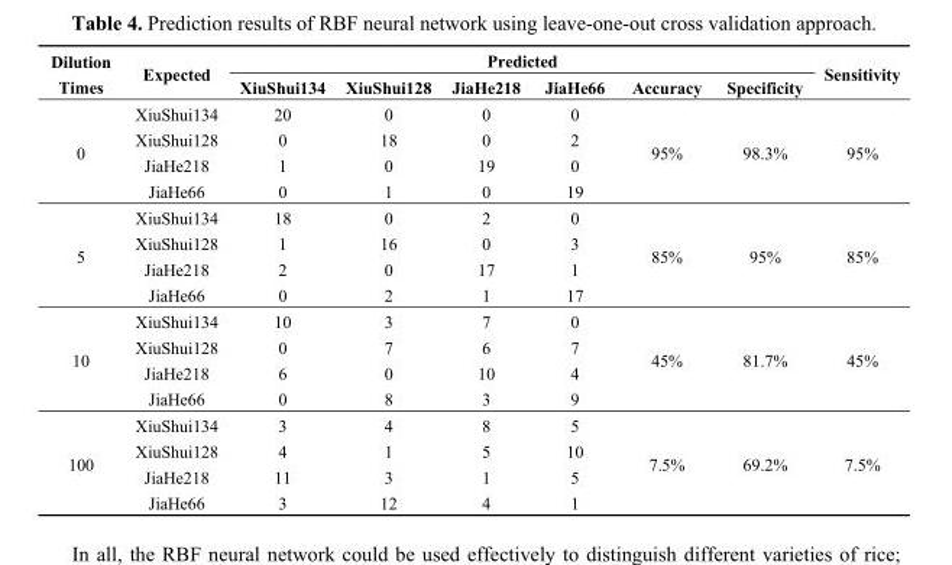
<table><thead><tr><td rowspan="2">Dilution Times</td><td rowspan="2">Expected</td><td colspan="6">Predicted</td><td rowspan="2">Sensitivity</td></tr><tr><td>XiuShui134</td><td>XiuShui128</td><td>JiaHe218</td><td>JiaHe66</td><td>Accuracy</td><td>Specificity</td></tr></thead><tbody><tr><td rowspan="4">0</td><td>XiuShui134</td><td>20</td><td>0</td><td>0</td><td>0</td><td rowspan="4">95%</td><td rowspan="4">98.3%</td><td rowspan="4">95%</td></tr><tr><td>XiuShui128</td><td>0</td><td>18</td><td>0</td><td>2</td></tr><tr><td>JiaHe218</td><td>1</td><td>0</td><td>19</td><td>0</td></tr><tr><td>JiaHe66</td><td>0</td><td>1</td><td>0</td><td>19</td></tr><tr><td rowspan="4">5</td><td>XiuShui134</td><td>18</td><td>0</td><td>2</td><td>0</td><td rowspan="4">85%</td><td rowspan="4">95%</td><td rowspan="4">85%</td></tr><tr><td>XiuShui128</td><td>1</td><td>16</td><td>0</td><td>3</td></tr><tr><td>JiaHe218</td><td>2</td><td>0</td><td>17</td><td>1</td></tr><tr><td>JiaHe66</td><td>0</td><td>2</td><td>1</td><td>17</td></tr><tr><td rowspan="4">10</td><td>XiuShui134</td><td>10</td><td>3</td><td>7</td><td>0</td><td rowspan="4">45%</td><td rowspan="4">81.7%</td><td rowspan="4">45%</td></tr><tr><td>XiuShui128</td><td>0</td><td>7</td><td>6</td><td>7</td></tr><tr><td>JiaHe218</td><td>6</td><td>0</td><td>10</td><td>4</td></tr><tr><td>JiaHe66</td><td>0</td><td>8</td><td>3</td><td>9</td></tr><tr><td rowspan="4">100</td><td>XiuShui134</td><td>3</td><td>4</td><td>8</td><td>5</td><td rowspan="4">7.5%</td><td rowspan="4">69.2%</td><td rowspan="4">7.5%</td></tr><tr><td>XiuShui128</td><td>4</td><td>1</td><td>5</td><td>10</td></tr><tr><td>JiaHe218</td><td>11</td><td>3</td><td>1</td><td>5</td></tr><tr><td>JiaHe66</td><td>3</td><td>12</td><td>4</td><td>1</td></tr></tbody></table>